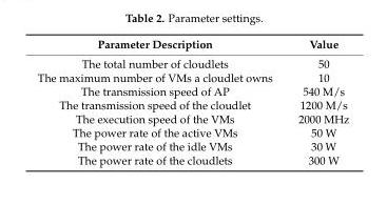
<table><thead><tr><td>Parameter Description</td><td>Value</td></tr></thead><tbody><tr><td>The total number of cloudlets</td><td>50</td></tr><tr><td>The maximum number of VMs a cloudlet owns</td><td>10</td></tr><tr><td>The transmission speed of AP</td><td>540 M/s</td></tr><tr><td>The transmission speed of the cloudlet</td><td>1200 M/s</td></tr><tr><td>The execution speed of the VMs</td><td>2000 MHz</td></tr><tr><td>The power rate of the active VMs</td><td>50 W</td></tr><tr><td>The power rate of the idle VMs</td><td>30 W</td></tr><tr><td>The power rate of the cloudlets</td><td>300 W</td></tr></tbody></table>